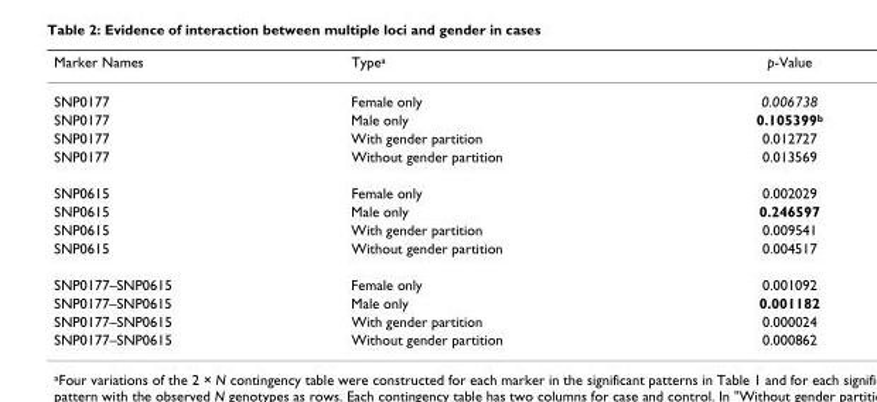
<table><thead><tr><td>Marker Names</td><td>Type<sup>a</sup></td><td>p-Value</td></tr></thead><tbody><tr><td>SNP0177</td><td>Female only</td><td>0.006738</td></tr><tr><td>SNP0177</td><td>Male only</td><td>0.105399<sup>b</sup></td></tr><tr><td>SNP0177</td><td>With gender partition</td><td>0.012727</td></tr><tr><td>SNP0177</td><td>Without gender partition</td><td>0.013569</td></tr><tr><td>SNP0615</td><td>Female only</td><td>0.002029</td></tr><tr><td>SNP0615</td><td>Male only</td><td>0.246597</td></tr><tr><td>SNP0615</td><td>With gender partition</td><td>0.009541</td></tr><tr><td>SNP0615</td><td>Without gender partition</td><td>0.004517</td></tr><tr><td>SNP0177–SNP0615</td><td>Female only</td><td>0.001092</td></tr><tr><td>SNP0177–SNP0615</td><td>Male only</td><td>0.001182</td></tr><tr><td>SNP0177–SNP0615</td><td>With gender partition</td><td>0.000024</td></tr><tr><td>SNP0177–SNP0615</td><td>Without gender partition</td><td>0.000862</td></tr></tbody></table>